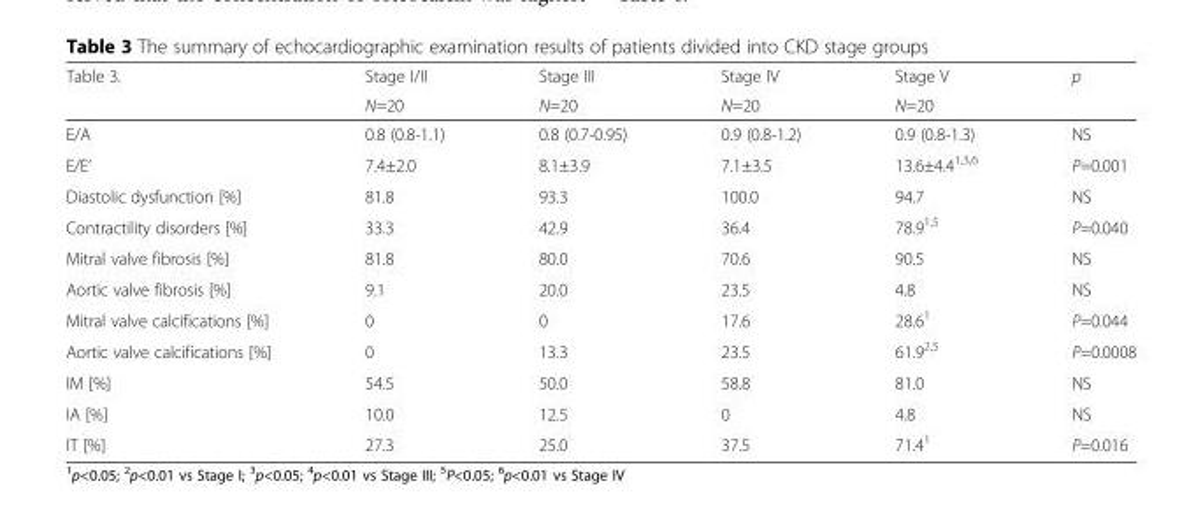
<table><thead><tr><td rowspan="2">Table 3.</td><td rowspan="2">Stage I/II N=20</td><td rowspan="2">Stage III N=20</td><td rowspan="2">Stage IV N=20</td><td rowspan="2">Stage V N=20</td><td rowspan="2">p</td></tr><tr></tr></thead><tbody><tr><td>E/A</td><td>0.8 (0.8-1.1)</td><td>0.8 (0.7-0.95)</td><td>0.9 (0.8-1.2)</td><td>0.9 (0.8-1.3)</td><td>NS</td></tr><tr><td>E/E’</td><td>7.4±2.0</td><td>8.1±3.9</td><td>7.1±3.5</td><td>13.6±4.4<sup>1,3,6</sup></td><td>P=0.001</td></tr><tr><td>Diastolic dysfunction [%]</td><td>81.8</td><td>93.3</td><td>100.0</td><td>94.7</td><td>NS</td></tr><tr><td>Contractility disorders [%]</td><td>33.3</td><td>42.9</td><td>36.4</td><td>78.9<sup>1,5</sup></td><td>P=0.040</td></tr><tr><td>Mitral valve fibrosis [%]</td><td>81.8</td><td>80.0</td><td>70.6</td><td>90.5</td><td>NS</td></tr><tr><td>Aortic valve fibrosis [%]</td><td>9.1</td><td>20.0</td><td>23.5</td><td>4.8</td><td>NS</td></tr><tr><td>Mitral valve calcifications [%]</td><td>0</td><td>0</td><td>17.6</td><td>28.6<sup>1</sup></td><td>P=0.044</td></tr><tr><td>Aortic valve calcifications [%]</td><td>0</td><td>13.3</td><td>23.5</td><td>61.9<sup>2,5</sup></td><td>P=0.0008</td></tr><tr><td>IM [%]</td><td>54.5</td><td>50.0</td><td>58.8</td><td>81.0</td><td>NS</td></tr><tr><td>IA [%]</td><td>10.0</td><td>12.5</td><td>0</td><td>4.8</td><td>NS</td></tr><tr><td>IT [%]</td><td>27.3</td><td>25.0</td><td>37.5</td><td>71.4<sup>1</sup></td><td>P=0.016</td></tr></tbody></table>